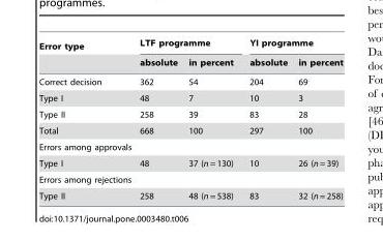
<table><thead><tr><td rowspan="2">Error type</td><td colspan="2">LTF programme</td><td colspan="2">YI programme</td></tr><tr><td>absolute</td><td>in percent</td><td>absolute</td><td>in percent</td></tr></thead><tbody><tr><td>Correct decision</td><td>362</td><td>54</td><td>204</td><td>69</td></tr><tr><td>Type I</td><td>48</td><td>7</td><td>10</td><td>3</td></tr><tr><td>Type II</td><td>258</td><td>39</td><td>83</td><td>28</td></tr><tr><td>Total</td><td>668</td><td>100</td><td>297</td><td>100</td></tr><tr><td colspan="5">Errors among approvals</td></tr><tr><td>Type I</td><td>48</td><td>37 (n = 130)</td><td>10</td><td>26 (n = 39)</td></tr><tr><td colspan="5">Errors among rejections</td></tr><tr><td>Type II</td><td>258</td><td>48 (n = 538)</td><td>83</td><td>32 (n = 258)</td></tr></tbody></table>